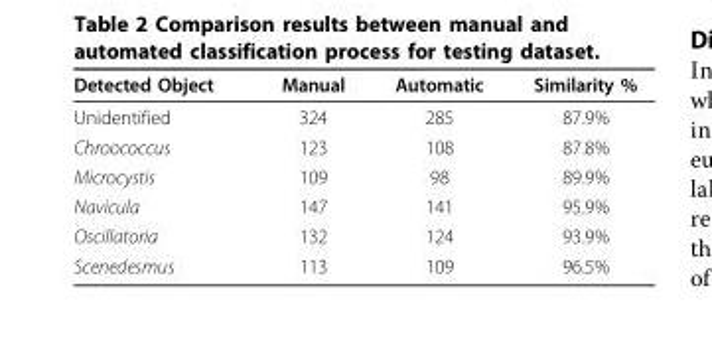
<table><thead><tr><td>Detected Object</td><td>Manual</td><td>Automatic</td><td>Similarity %</td></tr></thead><tbody><tr><td>Unidentified</td><td>324</td><td>285</td><td>87.9%</td></tr><tr><td>Chroococcus</td><td>123</td><td>108</td><td>87.8%</td></tr><tr><td>Microcystis</td><td>109</td><td>98</td><td>89.9%</td></tr><tr><td>Navicula</td><td>147</td><td>141</td><td>95.9%</td></tr><tr><td>Oscillatoria</td><td>132</td><td>124</td><td>93.9%</td></tr><tr><td>Scenedesmus</td><td>113</td><td>109</td><td>96.5%</td></tr></tbody></table>